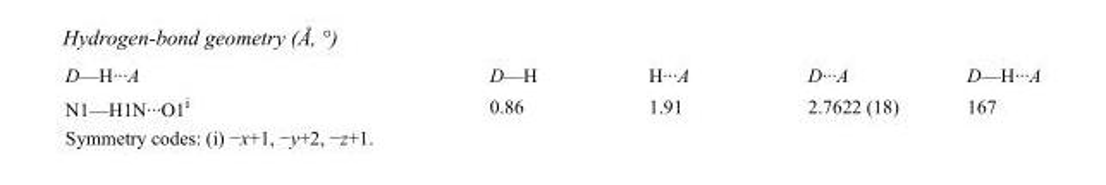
<table><tbody><tr><td>D—H···A</td><td>D—H</td><td>H···A</td><td>D···A</td><td>D—H···A</td></tr><tr><td>N1—H1N···O1<sup>i</sup></td><td>0.86</td><td>1.91</td><td>2.7622 (18)</td><td>167</td></tr></tbody></table>